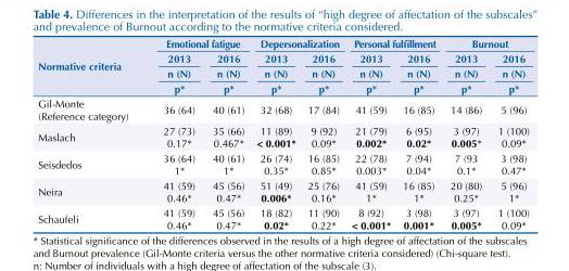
<table><thead><tr><td rowspan="4">Normative criteria</td><td colspan="2">Emotional fatigue</td><td colspan="2">Depersonalization</td><td colspan="2">Personal fulfillment</td><td colspan="2">Burnout</td></tr><tr><td rowspan="3">2013 n (N) p*</td><td rowspan="3">2016 n (N) p*</td><td rowspan="3">2013 n (N) p*</td><td rowspan="3">2016 n (N) p*</td><td rowspan="3">2013 n (N) p*</td><td rowspan="3">2016 n (N) p*</td><td rowspan="3">2013 n (N) p*</td><td rowspan="3">2016 n (N) p*</td></tr><tr></tr><tr></tr></thead><tbody><tr><td>Gil-Monte (Reference category)</td><td>36 (64)</td><td>40 (61)</td><td>32 (68)</td><td>17 (84)</td><td>41 (59)</td><td>16 (85)</td><td>14 (86)</td><td>5 (96)</td></tr><tr><td>Maslach</td><td>27 (73) 0.17*</td><td>35 (66) 0.467*</td><td>11 (89) &lt; 0.001*</td><td>9 (92) 0.09*</td><td>21 (79) 0.002*</td><td>6 (95) 0.02*</td><td>3 (97) 0.005*</td><td>1 (100) 0.09*</td></tr><tr><td>Seisdedos</td><td>36 (64) 1*</td><td>40 (61) 1*</td><td>26 (74) 0.35*</td><td>16 (85) 0.85*</td><td>22 (78) 0.003*</td><td>7 (94) 0.04*</td><td>7 (93 0.1*</td><td>3 (98) 0.47*</td></tr><tr><td>Neira</td><td>41 (59) 0.46*</td><td>45 (56) 0.47*</td><td>51 (49) 0.006*</td><td>25 (76) 0.16*</td><td>41 (59) 1*</td><td>16 (85) 1*</td><td>20 (80) 0.25*</td><td>5 (96) 1*</td></tr><tr><td>Schaufeli</td><td>41 (59) 0.46*</td><td>45 (56) 0.47*</td><td>18 (82) 0.02*</td><td>11 (90) 0.22*</td><td>8 (92) &lt; 0.001*</td><td>3 (98) 0.001*</td><td>3 (97) 0.005*</td><td>1 (100) 0.09*</td></tr></tbody></table>